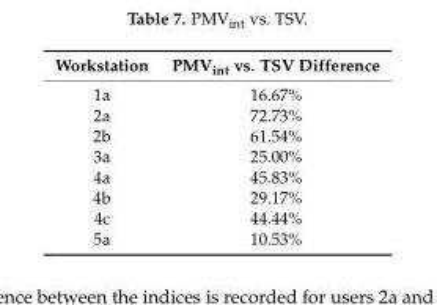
<table><thead><tr><td>Workstation</td><td>PMV<sub>int</sub> vs. TSV Difference</td></tr></thead><tbody><tr><td>1a</td><td>16.67%</td></tr><tr><td>2a</td><td>72.73%</td></tr><tr><td>2b</td><td>61.54%</td></tr><tr><td>3a</td><td>25.00%</td></tr><tr><td>4a</td><td>45.83%</td></tr><tr><td>4b</td><td>29.17%</td></tr><tr><td>4c</td><td>44.44%</td></tr><tr><td>5a</td><td>10.53%</td></tr></tbody></table>